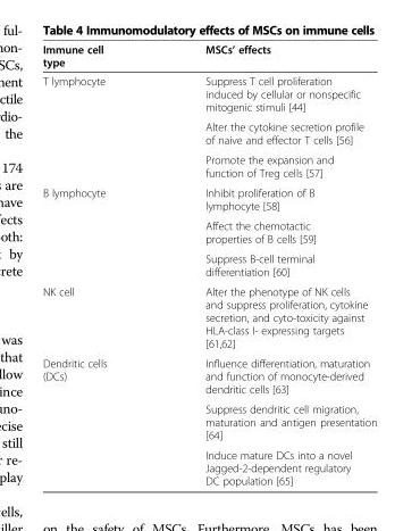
<table><thead><tr><td>Immune cell type</td><td>MSCs’ effects</td></tr></thead><tbody><tr><td rowspan="3">T lymphocyte</td><td>Suppress T cell proliferation induced by cellular or nonspecific mitogenic stimuli [44]</td></tr><tr><td>Alter the cytokine secretion profile of naive and effector T cells [56]</td></tr><tr><td>Promote the expansion and function of Treg cells [57]</td></tr><tr><td rowspan="3">B lymphocyte</td><td>Inhibit proliferation of B lymphocyte [58]</td></tr><tr><td>Affect the chemotactic properties of B cells [59]</td></tr><tr><td>Suppress B-cell terminal differentiation [60]</td></tr><tr><td>NK cell</td><td>Alter the phenotype of NK cells and suppress proliferation, cytokine secretion, and cyto-toxicity against HLA-class I- expressing targets [61,62]</td></tr><tr><td rowspan="3">Dendritic cells (DCs)</td><td>Influence differentiation, maturation and function of monocyte-derived dendritic cells [63]</td></tr><tr><td>Suppress dendritic cell migration, maturation and antigen presentation [64]</td></tr><tr><td>Induce mature DCs into a novel Jagged-2-dependent regulatory DC population [65]</td></tr></tbody></table>